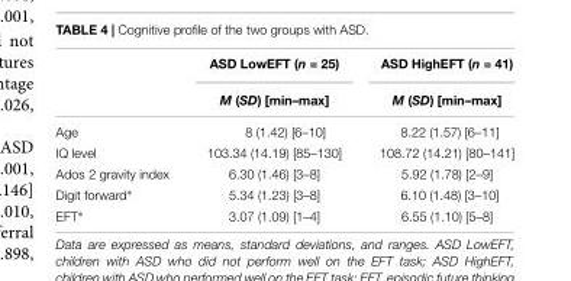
<table><thead><tr><td rowspan="2"></td><td rowspan="2">ASD LowEFT (n = 25) M (SD) [min–max]</td><td rowspan="2">ASD HighEFT (n = 41) M (SD) [min–max]</td></tr><tr></tr></thead><tbody><tr><td>Age</td><td>8 (1.42) [6–10]</td><td>8.22 (1.57) [6–11]</td></tr><tr><td>IQ level</td><td>103.34 (14.19) [85–130]</td><td>108.72 (14.21) [80–141]</td></tr><tr><td>Ados 2 gravity index</td><td>6.30 (1.46) [3–8]</td><td>5.92 (1.78) [2–9]</td></tr><tr><td>Digit forward∗</td><td>5.34 (1.23) [3–8]</td><td>6.10 (1.48) [3–10]</td></tr><tr><td>EFT∗</td><td>3.07 (1.09) [1–4]</td><td>6.55 (1.10) [5–8]</td></tr></tbody></table>